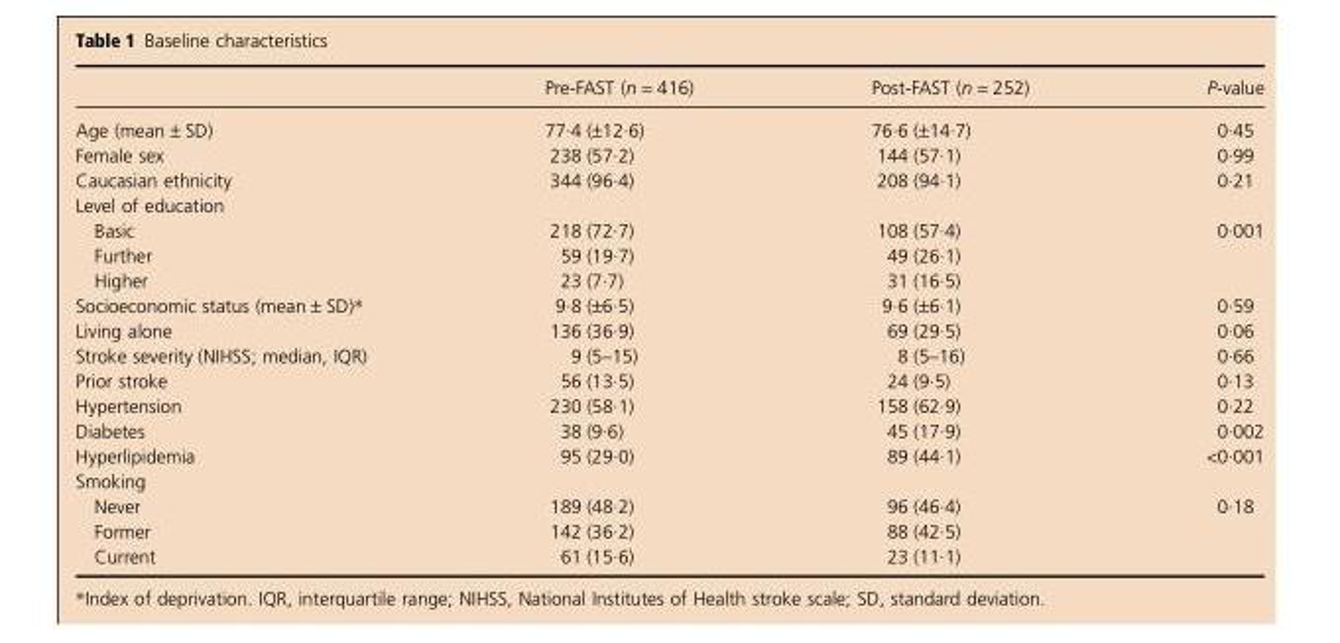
<table><thead><tr><td></td><td>Pre-FAST (n = 416)</td><td>Post-FAST (n = 252)</td><td>P-value</td></tr></thead><tbody><tr><td>Age (mean ± SD)</td><td>77·4 (±12·6)</td><td>76·6 (±14·7)</td><td>0·45</td></tr><tr><td>Female sex</td><td>238 (57·2)</td><td>144 (57·1)</td><td>0·99</td></tr><tr><td>Caucasian ethnicity</td><td>344 (96·4)</td><td>208 (94·1)</td><td>0·21</td></tr><tr><td colspan="4">Level of education</td></tr><tr><td>Basic</td><td>218 (72·7)</td><td>108 (57·4)</td><td>0·001</td></tr><tr><td>Further</td><td>59 (19·7)</td><td>49 (26·1)</td><td></td></tr><tr><td>Higher</td><td>23 (7·7)</td><td>31 (16·5)</td><td></td></tr><tr><td>Socioeconomic status (mean ± SD)*</td><td>9·8 (±6·5)</td><td>9·6 (±6·1)</td><td>0·59</td></tr><tr><td>Living alone</td><td>136 (36·9)</td><td>69 (29·5)</td><td>0·06</td></tr><tr><td>Stroke severity (NIHSS; median, IQR)</td><td>9 (5–15)</td><td>8 (5–16)</td><td>0·66</td></tr><tr><td>Prior stroke</td><td>56 (13·5)</td><td>24 (9·5)</td><td>0·13</td></tr><tr><td>Hypertension</td><td>230 (58·1)</td><td>158 (62·9)</td><td>0·22</td></tr><tr><td>Diabetes</td><td>38 (9·6)</td><td>45 (17·9)</td><td>0·002</td></tr><tr><td>Hyperlipidemia</td><td>95 (29·0)</td><td>89 (44·1)</td><td>&lt;0·001</td></tr><tr><td colspan="4">Smoking</td></tr><tr><td>Never</td><td>189 (48·2)</td><td>96 (46·4)</td><td>0·18</td></tr><tr><td>Former</td><td>142 (36·2)</td><td>88 (42·5)</td><td></td></tr><tr><td>Current</td><td>61 (15·6)</td><td>23 (11·1)</td><td></td></tr></tbody></table>